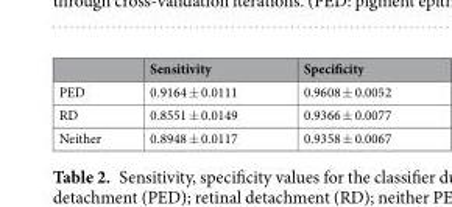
<table><thead><tr><td></td><td>Sensitivity</td><td>Specificity</td></tr></thead><tbody><tr><td>PED</td><td>0.9164 ± 0.0111</td><td>0.9608 ± 0.0052</td></tr><tr><td>RD</td><td>0.8551 ± 0.0149</td><td>0.9366 ± 0.0077</td></tr><tr><td>Neither</td><td>0.8948 ± 0.0117</td><td>0.9358 ± 0.0067</td></tr></tbody></table>